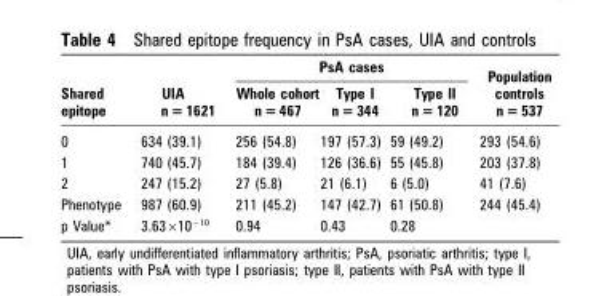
<table><thead><tr><td rowspan="2">Shared epitope</td><td rowspan="2">UIA n = 1621</td><td colspan="3">PsA cases</td><td rowspan="2">Population controls n = 537</td></tr><tr><td>Whole cohort n = 467</td><td>Type I n = 344</td><td>Type II n = 120</td></tr></thead><tbody><tr><td>0</td><td>634 (39.1)</td><td>256 (54.8)</td><td>197 (57.3)</td><td>59 (49.2)</td><td>293 (54.6)</td></tr><tr><td>1</td><td>740 (45.7)</td><td>184 (39.4)</td><td>126 (36.6)</td><td>55 (45.8)</td><td>203 (37.8)</td></tr><tr><td>2</td><td>247 (15.2)</td><td>27 (5.8)</td><td>21 (6.1)</td><td>6 (5.0)</td><td>41 (7.6)</td></tr><tr><td>Phenotype</td><td>987 (60.9)</td><td>211 (45.2)</td><td>147 (42.7)</td><td>61 (50.8)</td><td>244 (45.4)</td></tr><tr><td>p Value*</td><td>3.63×10<sup>−10</sup></td><td>0.94</td><td>0.43</td><td>0.28</td><td></td></tr></tbody></table>